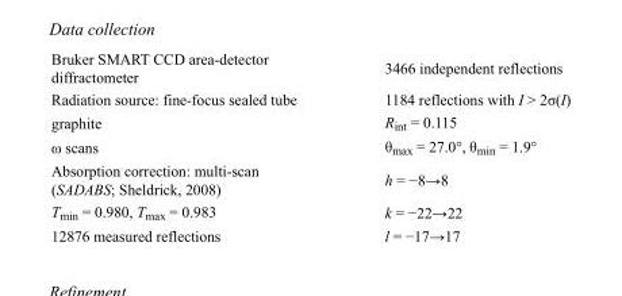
<table><tbody><tr><td>Bruker SMART CCD area-detector diffractometer</td><td>3466 independent reflections</td></tr><tr><td>Radiation source: fine-focus sealed tube</td><td>1184 reflections with I &gt; 2σ(I)</td></tr><tr><td>graphite</td><td>R<sub>int</sub> = 0.115</td></tr><tr><td>ω scans</td><td>θ<sub>max</sub> = 27.0°, θ<sub>min</sub> = 1.9°</td></tr><tr><td>Absorption correction: multi-scan (SADABS; Sheldrick, 2008)</td><td>h = −8→8</td></tr><tr><td>T<sub>min</sub> = 0.980, T<sub>max</sub> = 0.983</td><td>k = −22→22</td></tr><tr><td>12876 measured reflections</td><td>l = −17→17</td></tr></tbody></table>